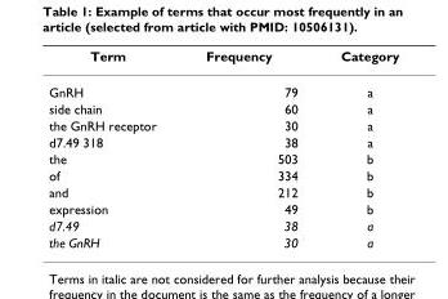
<table><thead><tr><td>Term</td><td>Frequency</td><td>Category</td></tr></thead><tbody><tr><td>GnRH</td><td>79</td><td>a</td></tr><tr><td>side chain</td><td>60</td><td>a</td></tr><tr><td>the GnRH receptor</td><td>30</td><td>a</td></tr><tr><td>d7.49 318</td><td>38</td><td>a</td></tr><tr><td>the</td><td>503</td><td>b</td></tr><tr><td>of</td><td>334</td><td>b</td></tr><tr><td>and</td><td>212</td><td>b</td></tr><tr><td>expression</td><td>49</td><td>b</td></tr><tr><td>d7.49</td><td>38</td><td>a</td></tr><tr><td>the GnRH</td><td>30</td><td>a</td></tr></tbody></table>